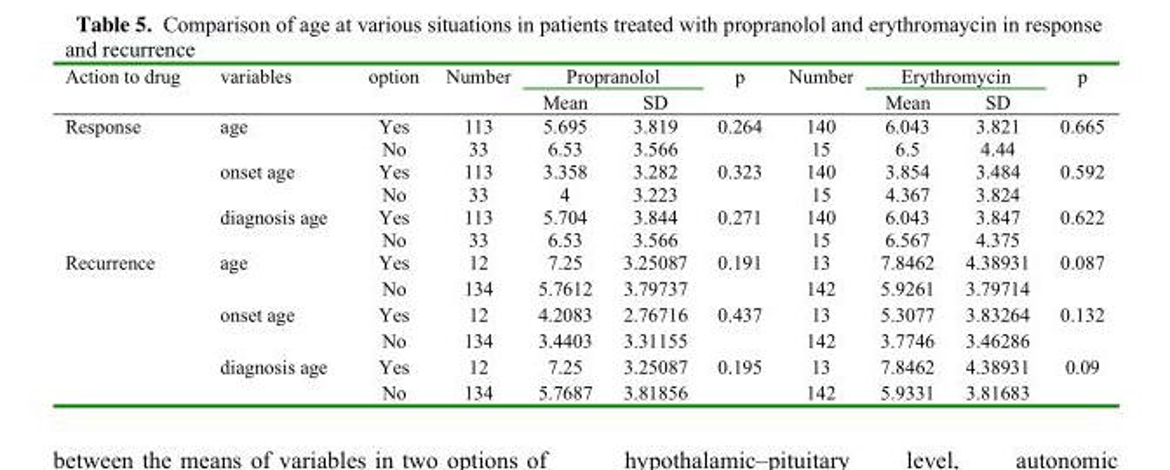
<table><thead><tr><td rowspan="2">Action to drug</td><td rowspan="2">variables</td><td rowspan="2">option</td><td rowspan="2">Number</td><td colspan="2">Propranolol</td><td rowspan="2">p</td><td rowspan="2">Number</td><td colspan="2">Erythromycin</td><td rowspan="2">p</td></tr><tr><td>Mean</td><td>SD</td><td>Mean</td><td>SD</td></tr></thead><tbody><tr><td rowspan="6">Response</td><td rowspan="2">age</td><td>Yes</td><td>113</td><td>5.695</td><td>3.819</td><td rowspan="2">0.264</td><td>140</td><td>6.043</td><td>3.821</td><td rowspan="2">0.665</td></tr><tr><td>No</td><td>33</td><td>6.53</td><td>3.566</td><td>15</td><td>6.5</td><td>4.44</td></tr><tr><td rowspan="2">onset age</td><td>Yes</td><td>113</td><td>3.358</td><td>3.282</td><td rowspan="2">0.323</td><td>140</td><td>3.854</td><td>3.484</td><td rowspan="2">0.592</td></tr><tr><td>No</td><td>33</td><td>4</td><td>3.223</td><td>15</td><td>4.367</td><td>3.824</td></tr><tr><td rowspan="2">diagnosis age</td><td>Yes</td><td>113</td><td>5.704</td><td>3.844</td><td rowspan="2">0.271</td><td>140</td><td>6.043</td><td>3.847</td><td rowspan="2">0.622</td></tr><tr><td>No</td><td>33</td><td>6.53</td><td>3.566</td><td>15</td><td>6.567</td><td>4.375</td></tr><tr><td rowspan="6">Recurrence</td><td rowspan="2">age</td><td>Yes</td><td>12</td><td>7.25</td><td>3.25087</td><td rowspan="2">0.191</td><td>13</td><td>7.8462</td><td>4.38931</td><td rowspan="2">0.087</td></tr><tr><td>No</td><td>134</td><td>5.7612</td><td>3.79737</td><td>142</td><td>5.9261</td><td>3.79714</td></tr><tr><td rowspan="2">onset age</td><td>Yes</td><td>12</td><td>4.2083</td><td>2.76716</td><td rowspan="2">0.437</td><td>13</td><td>5.3077</td><td>3.83264</td><td rowspan="2">0.132</td></tr><tr><td>No</td><td>134</td><td>3.4403</td><td>3.31155</td><td>142</td><td>3.7746</td><td>3.46286</td></tr><tr><td rowspan="2">diagnosis age</td><td>Yes</td><td>12</td><td>7.25</td><td>3.25087</td><td rowspan="2">0.195</td><td>13</td><td>7.8462</td><td>4.38931</td><td rowspan="2">0.09</td></tr><tr><td>No</td><td>134</td><td>5.7687</td><td>3.81856</td><td>142</td><td>5.9331</td><td>3.81683</td></tr></tbody></table>